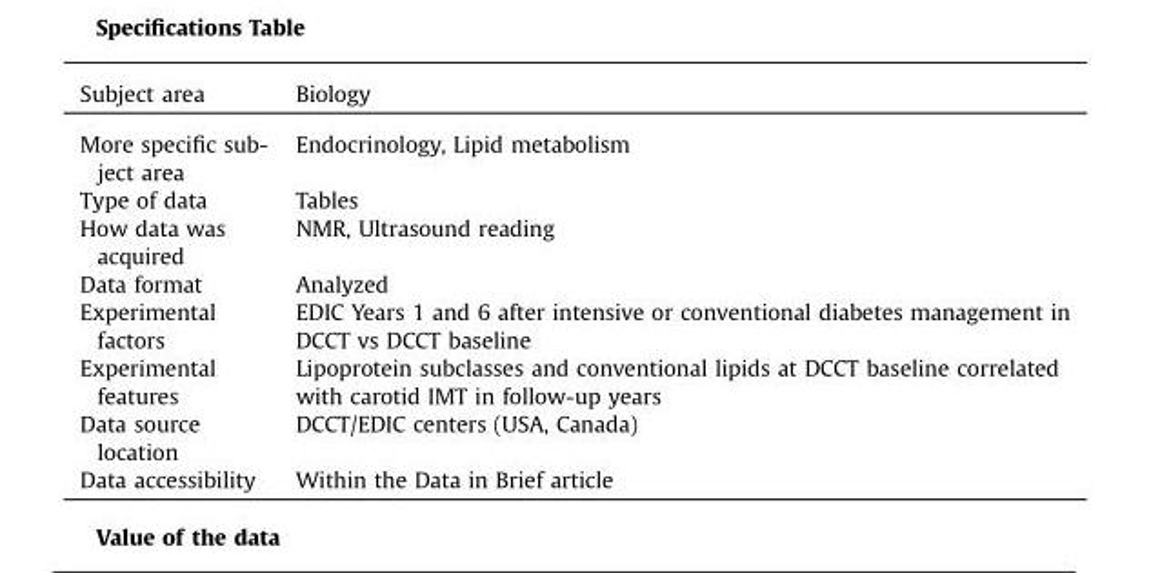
<table><thead><tr><td>Subject area</td><td>Biology</td></tr></thead><tbody><tr><td>More specific sub- ject area</td><td>Endocrinology, Lipid metabolism</td></tr><tr><td>Type of data</td><td>Tables</td></tr><tr><td>How data was acquired</td><td>NMR, Ultrasound reading</td></tr><tr><td>Data format</td><td>Analyzed</td></tr><tr><td>Experimental factors</td><td>EDIC Years 1 and 6 after intensive or conventional diabetes management in DCCT vs DCCT baseline</td></tr><tr><td>Experimental features</td><td>Lipoprotein subclasses and conventional lipids at DCCT baseline correlated with carotid IMT in follow-up years</td></tr><tr><td>Data source location</td><td>DCCT/EDIC centers (USA, Canada)</td></tr><tr><td>Data accessibility</td><td>Within the Data in Brief article</td></tr></tbody></table>